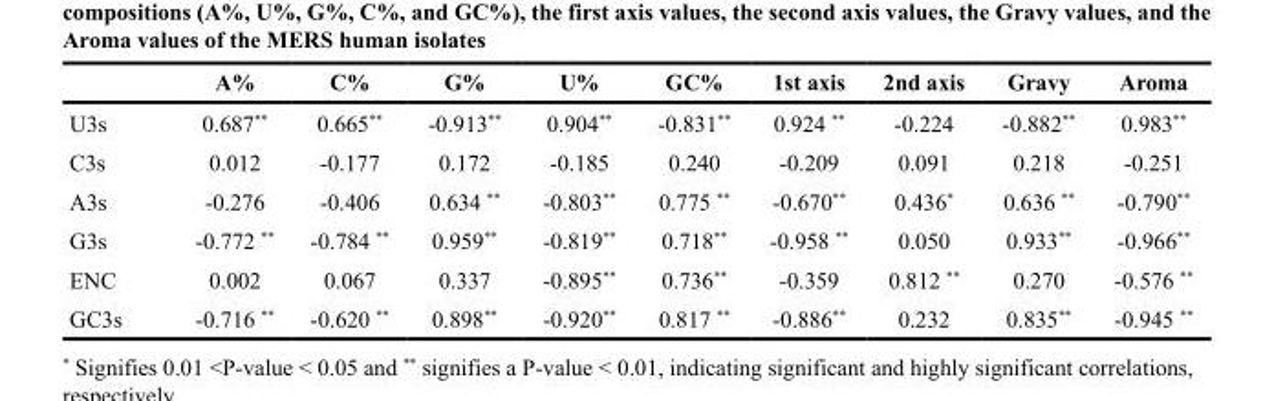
<table><thead><tr><td></td><td>A%</td><td>C%</td><td>G%</td><td>U%</td><td>GC%</td><td>1st axis</td><td>2nd axis</td><td>Gravy</td><td>Aroma</td></tr></thead><tbody><tr><td>U3s</td><td>0.687**</td><td>0.665**</td><td>-0.913**</td><td>0.904**</td><td>-0.831**</td><td>0.924 **</td><td>-0.224</td><td>-0.882**</td><td>0.983**</td></tr><tr><td>C3s</td><td>0.012</td><td>-0.177</td><td>0.172</td><td>-0.185</td><td>0.240</td><td>-0.209</td><td>0.091</td><td>0.218</td><td>-0.251</td></tr><tr><td>A3s</td><td>-0.276</td><td>-0.406</td><td>0.634 **</td><td>-0.803**</td><td>0.775 **</td><td>-0.670**</td><td>0.436*</td><td>0.636 **</td><td>-0.790**</td></tr><tr><td>G3s</td><td>-0.772 **</td><td>-0.784 **</td><td>0.959**</td><td>-0.819**</td><td>0.718**</td><td>-0.958 **</td><td>0.050</td><td>0.933**</td><td>-0.966**</td></tr><tr><td>ENC</td><td>0.002</td><td>0.067</td><td>0.337</td><td>-0.895**</td><td>0.736**</td><td>-0.359</td><td>0.812 **</td><td>0.270</td><td>-0.576 **</td></tr><tr><td>GC3s</td><td>-0.716 **</td><td>-0.620 **</td><td>0.898**</td><td>-0.920**</td><td>0.817 **</td><td>-0.886**</td><td>0.232</td><td>0.835**</td><td>-0.945 **</td></tr></tbody></table>